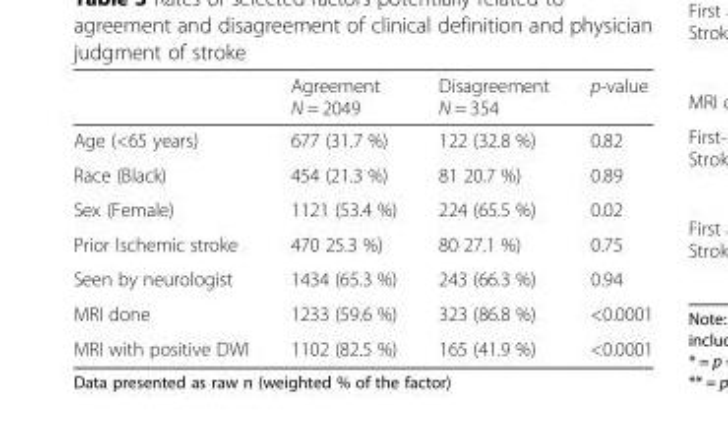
<table><thead><tr><td></td><td>Agreement N = 2049</td><td>Disagreement N = 354</td><td>p-value</td></tr></thead><tbody><tr><td>Age (&lt;65 years)</td><td>677 (31.7 %)</td><td>122 (32.8 %)</td><td>0.82</td></tr><tr><td>Race (Black)</td><td>454 (21.3 %)</td><td>81 20.7 %)</td><td>0.89</td></tr><tr><td>Sex (Female)</td><td>1121 (53.4 %)</td><td>224 (65.5 %)</td><td>0.02</td></tr><tr><td>Prior Ischemic stroke</td><td>470 25.3 %)</td><td>80 27.1 %)</td><td>0.75</td></tr><tr><td>Seen by neurologist</td><td>1434 (65.3 %)</td><td>243 (66.3 %)</td><td>0.94</td></tr><tr><td>MRI done</td><td>1233 (59.6 %)</td><td>323 (86.8 %)</td><td>&lt;0.0001</td></tr><tr><td>MRI with positive DWI</td><td>1102 (82.5 %)</td><td>165 (41.9 %)</td><td>&lt;0.0001</td></tr></tbody></table>